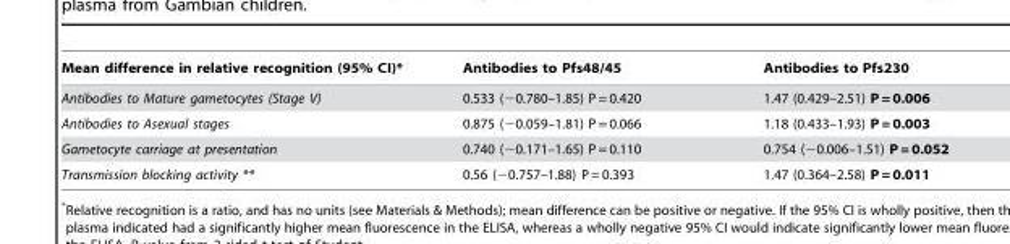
<table><thead><tr><td>Mean difference in relative recognition (95% CI)*</td><td>Antibodies to Pfs48/45</td><td>Antibodies to Pfs230</td></tr></thead><tbody><tr><td>Antibodies to Mature gametocytes (Stage V)</td><td>0.533 (−0.780–1.85) P = 0.420</td><td>1.47 (0.429–2.51) P = 0.006</td></tr><tr><td>Antibodies to Asexual stages</td><td>0.875 (−0.059–1.81) P = 0.066</td><td>1.18 (0.433–1.93) P = 0.003</td></tr><tr><td>Gametocyte carriage at presentation</td><td>0.740 (−0.171–1.65) P = 0.110</td><td>0.754 (−0.006–1.51) P = 0.052</td></tr><tr><td>Transmission blocking activity **</td><td>0.56 (−0.757–1.88) P = 0.393</td><td>1.47 (0.364–2.58) P = 0.011</td></tr></tbody></table>